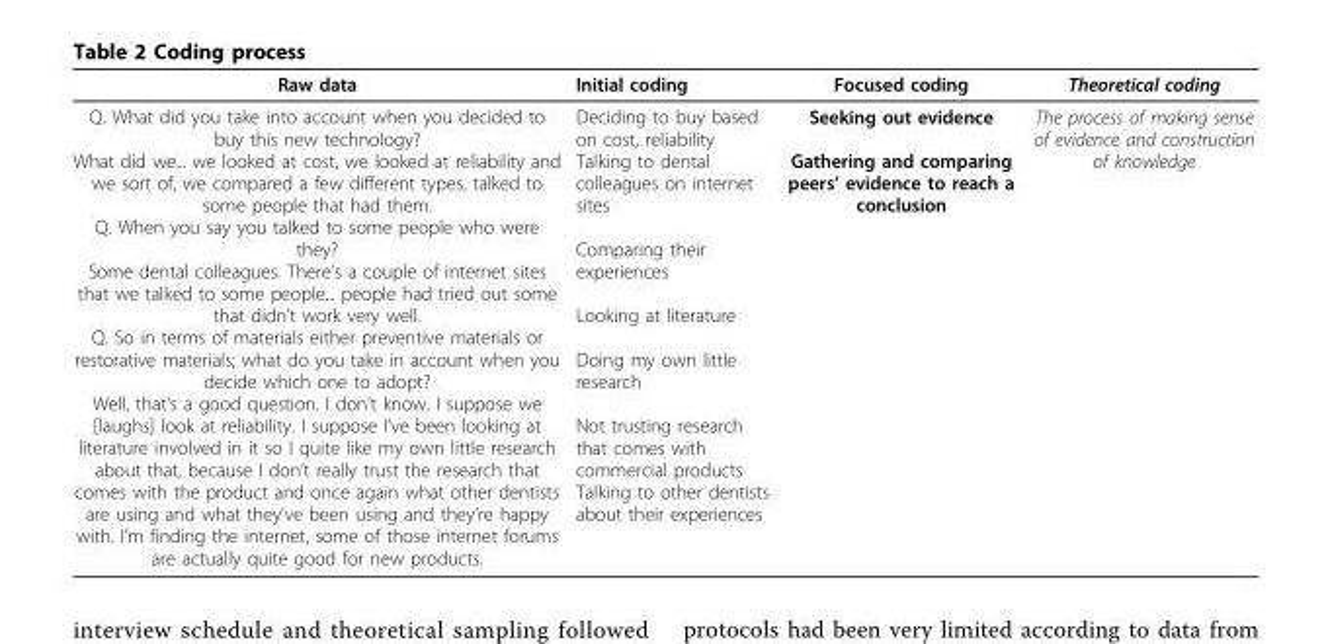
<table><thead><tr><td>Raw data</td><td>Initial coding</td><td>Focused coding</td><td>Theoretical coding</td></tr></thead><tbody><tr><td>Q. What did you take into account when you decided to buy this new technology? What did we... we looked at cost, we looked at reliability and we sort of, we compared a few different types, talked to some people that had them. Q. When you say you talked to some people who were they? Some dental colleagues. There’s a couple of internet sites that we talked to some people... people had tried out some that didn’t work very well. Q. So in terms of materials either preventive materials or restorative materials; what do you take in account when you decide which one to adopt? Well, that’s a good question. I don’t know. I suppose we [laughs] look at reliability. I suppose I’ve been looking at literature involved in it so I quite like my own little research about that, because I don’t really trust the research that comes with the product and once again what other dentists are using and what they’ve been using and they’re happy with. I’m finding the internet, some of those internet forums are actually quite good for new products.</td><td>Deciding to buy based on cost, reliability Talking to dental colleagues on internet sites Comparing their experiences Looking at literature Doing my own little research Not trusting research that comes with commercial products Talking to other dentists about their experiences</td><td>Seeking out evidence Gathering and comparing peers’ evidence to reach a conclusion</td><td>The process of making sense of evidence and construction of knowledge</td></tr></tbody></table>